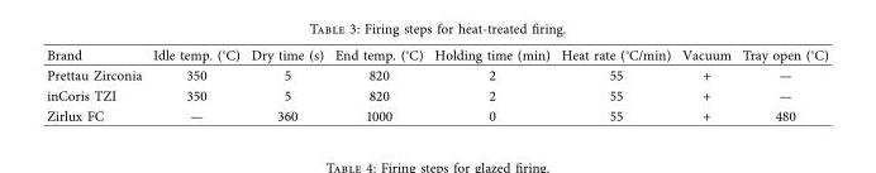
<table><thead><tr><td>Brand</td><td>Idle temp. (°C)</td><td>Dry time (s)</td><td>End temp. (°C)</td><td>Holding time (min)</td><td>Heat rate (°C/min)</td><td>Vacuum</td><td>Tray open (°C)</td></tr></thead><tbody><tr><td>Prettau Zirconia</td><td>350</td><td>5</td><td>820</td><td>2</td><td>55</td><td>+</td><td>—</td></tr><tr><td>inCoris TZI</td><td>350</td><td>5</td><td>820</td><td>2</td><td>55</td><td>+</td><td>—</td></tr><tr><td>Zirlux FC</td><td>—</td><td>360</td><td>1000</td><td>0</td><td>55</td><td>+</td><td>480</td></tr></tbody></table>